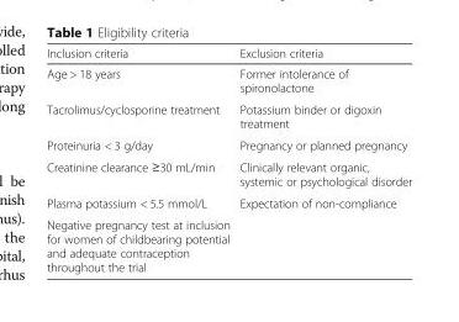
<table><thead><tr><td>Inclusion criteria</td><td>Exclusion criteria</td></tr></thead><tbody><tr><td>Age &gt; 18 years</td><td>Former intolerance of spironolactone</td></tr><tr><td>Tacrolimus/cyclosporine treatment</td><td>Potassium binder or digoxin treatment</td></tr><tr><td>Proteinuria &lt; 3 g/day</td><td>Pregnancy or planned pregnancy</td></tr><tr><td>Creatinine clearance ≥30 mL/min</td><td>Clinically relevant organic, systemic or psychological disorder</td></tr><tr><td>Plasma potassium &lt; 5.5 mmol/L</td><td>Expectation of non-compliance</td></tr><tr><td>Negative pregnancy test at inclusion for women of childbearing potential and adequate contraception throughout the trial</td><td></td></tr></tbody></table>